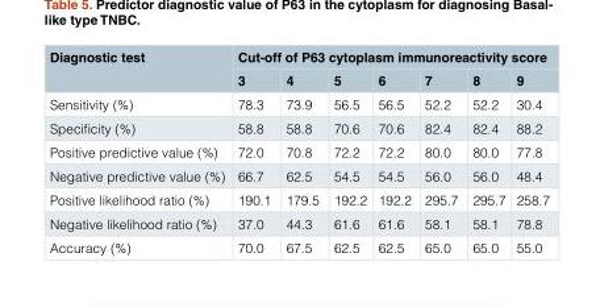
<table><thead><tr><td rowspan="2">Diagnostic test</td><td colspan="7">Cut-off of P63 cytoplasm immunoreactivity score</td></tr><tr><td>3</td><td>4</td><td>5</td><td>6</td><td>7</td><td>8</td><td>9</td></tr></thead><tbody><tr><td>Sensitivity (%)</td><td>78.3</td><td>73.9</td><td>56.5</td><td>56.5</td><td>52.2</td><td>52.2</td><td>30.4</td></tr><tr><td>Specificity (%)</td><td>58.8</td><td>58.8</td><td>70.6</td><td>70.6</td><td>82.4</td><td>82.4</td><td>88.2</td></tr><tr><td>Positive predictive value (%)</td><td>72.0</td><td>70.8</td><td>72.2</td><td>72.2</td><td>80.0</td><td>80.0</td><td>77.8</td></tr><tr><td>Negative predictive value (%)</td><td>66.7</td><td>62.5</td><td>54.5</td><td>54.5</td><td>56.0</td><td>56.0</td><td>48.4</td></tr><tr><td>Positive likelihood ratio (%)</td><td>190.1</td><td>179.5</td><td>192.2</td><td>192.2</td><td>295.7</td><td>295.7</td><td>258.7</td></tr><tr><td>Negative likelihood ratio (%)</td><td>37.0</td><td>44.3</td><td>61.6</td><td>61.6</td><td>58.1</td><td>58.1</td><td>78.8</td></tr><tr><td>Accuracy (%)</td><td>70.0</td><td>67.5</td><td>62.5</td><td>62.5</td><td>65.0</td><td>65.0</td><td>55.0</td></tr></tbody></table>